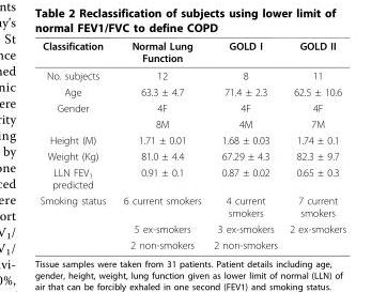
<table><thead><tr><td>Classification</td><td>Normal Lung Function</td><td>GOLD I</td><td>GOLD II</td></tr></thead><tbody><tr><td>No. subjects</td><td>12</td><td>8</td><td>11</td></tr><tr><td>Age</td><td>63.3 ± 4.7</td><td>71.4 ± 2.3</td><td>62.5 ± 10.6</td></tr><tr><td rowspan="2">Gender</td><td>4F</td><td>4F</td><td>4F</td></tr><tr><td>8M</td><td>4M</td><td>7M</td></tr><tr><td>Height (M)</td><td>1.71 ± 0.01</td><td>1.68 ± 0.03</td><td>1.74 ± 0.1</td></tr><tr><td>Weight (Kg)</td><td>81.0 ± 4.4</td><td>67.29 ± 4.3</td><td>82.3 ± 9.7</td></tr><tr><td>LLN FEV1 predicted</td><td>0.91 ± 0.1</td><td>0.87 ± 0.02</td><td>0.65 ± 0.3</td></tr><tr><td rowspan="3">Smoking status</td><td>6 current smokers</td><td>4 current smokers</td><td>7 current smokers</td></tr><tr><td>5 ex-smokers</td><td>3 ex-smokers</td><td>2 ex-smokers</td></tr><tr><td>2 non-smokers</td><td>2 non-smokers</td><td></td></tr></tbody></table>